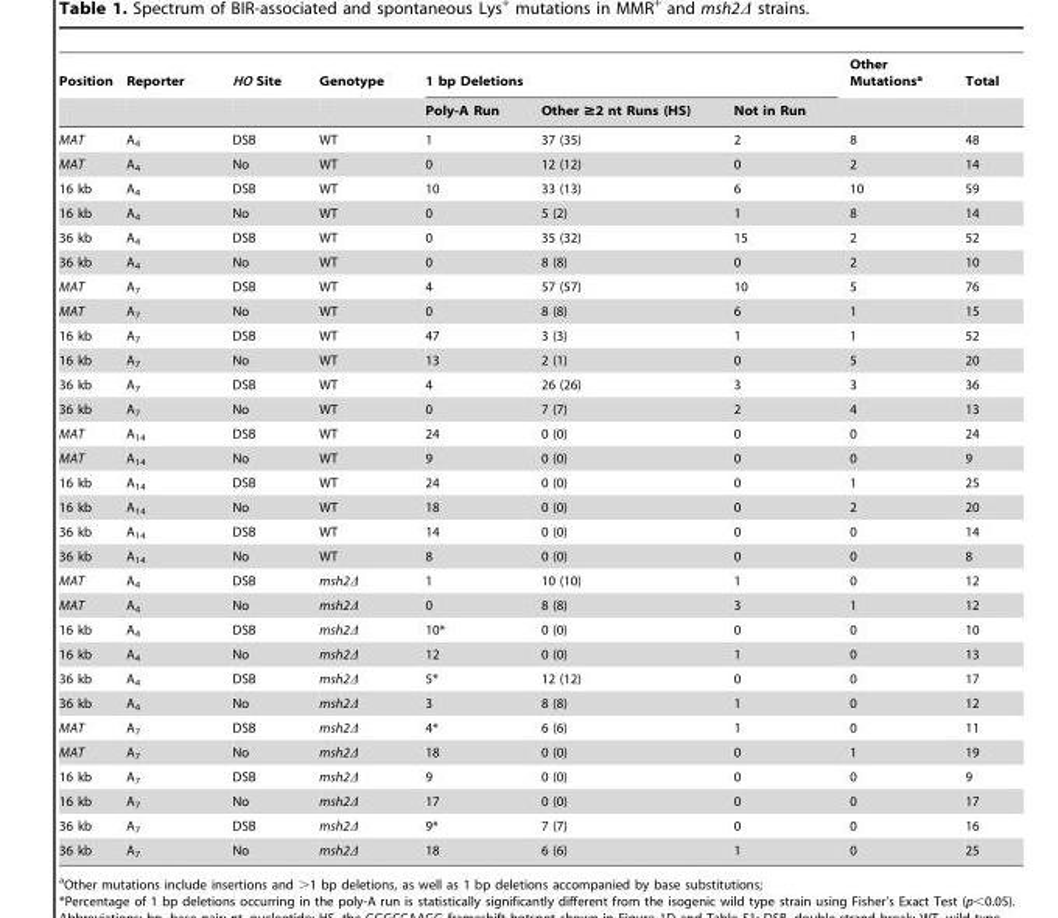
<table><thead><tr><td rowspan="2">Position</td><td rowspan="2">Reporter</td><td rowspan="2">HO Site</td><td rowspan="2">Genotype</td><td colspan="3">1 bp Deletions</td><td rowspan="2">Other Mutations<sup>a</sup></td><td rowspan="2">Total</td></tr><tr><td>Poly-A Run</td><td>Other ≥2 nt Runs (HS)</td><td>Not in Run</td></tr></thead><tbody><tr><td>MAT</td><td>A<sub>4</sub></td><td>DSB</td><td>WT</td><td>1</td><td>37 (35)</td><td>2</td><td>8</td><td>48</td></tr><tr><td>MAT</td><td>A<sub>4</sub></td><td>No</td><td>WT</td><td>0</td><td>12 (12)</td><td>0</td><td>2</td><td>14</td></tr><tr><td>16 kb</td><td>A<sub>4</sub></td><td>DSB</td><td>WT</td><td>10</td><td>33 (13)</td><td>6</td><td>10</td><td>59</td></tr><tr><td>16 kb</td><td>A<sub>4</sub></td><td>No</td><td>WT</td><td>0</td><td>5 (2)</td><td>1</td><td>8</td><td>14</td></tr><tr><td>36 kb</td><td>A<sub>4</sub></td><td>DSB</td><td>WT</td><td>0</td><td>35 (32)</td><td>15</td><td>2</td><td>52</td></tr><tr><td>36 kb</td><td>A<sub>4</sub></td><td>No</td><td>WT</td><td>0</td><td>8 (8)</td><td>0</td><td>2</td><td>10</td></tr><tr><td>MAT</td><td>A<sub>7</sub></td><td>DSB</td><td>WT</td><td>4</td><td>57 (57)</td><td>10</td><td>5</td><td>76</td></tr><tr><td>MAT</td><td>A<sub>7</sub></td><td>No</td><td>WT</td><td>0</td><td>8 (8)</td><td>6</td><td>1</td><td>15</td></tr><tr><td>16 kb</td><td>A<sub>7</sub></td><td>DSB</td><td>WT</td><td>47</td><td>3 (3)</td><td>1</td><td>1</td><td>52</td></tr><tr><td>16 kb</td><td>A<sub>7</sub></td><td>No</td><td>WT</td><td>13</td><td>2 (1)</td><td>0</td><td>5</td><td>20</td></tr><tr><td>36 kb</td><td>A<sub>7</sub></td><td>DSB</td><td>WT</td><td>4</td><td>26 (26)</td><td>3</td><td>3</td><td>36</td></tr><tr><td>36 kb</td><td>A<sub>7</sub></td><td>No</td><td>WT</td><td>0</td><td>7 (7)</td><td>2</td><td>4</td><td>13</td></tr><tr><td>MAT</td><td>A<sub>14</sub></td><td>DSB</td><td>WT</td><td>24</td><td>0 (0)</td><td>0</td><td>0</td><td>24</td></tr><tr><td>MAT</td><td>A<sub>14</sub></td><td>No</td><td>WT</td><td>9</td><td>0 (0)</td><td>0</td><td>0</td><td>9</td></tr><tr><td>16 kb</td><td>A<sub>14</sub></td><td>DSB</td><td>WT</td><td>24</td><td>0 (0)</td><td>0</td><td>1</td><td>25</td></tr><tr><td>16 kb</td><td>A<sub>14</sub></td><td>No</td><td>WT</td><td>18</td><td>0 (0)</td><td>0</td><td>2</td><td>20</td></tr><tr><td>36 kb</td><td>A<sub>14</sub></td><td>DSB</td><td>WT</td><td>14</td><td>0 (0)</td><td>0</td><td>0</td><td>14</td></tr><tr><td>36 kb</td><td>A<sub>14</sub></td><td>No</td><td>WT</td><td>8</td><td>0 (0)</td><td>0</td><td>0</td><td>8</td></tr><tr><td>MAT</td><td>A<sub>4</sub></td><td>DSB</td><td>msh2Δ</td><td>1</td><td>10 (10)</td><td>1</td><td>0</td><td>12</td></tr><tr><td>MAT</td><td>A<sub>4</sub></td><td>No</td><td>msh2Δ</td><td>0</td><td>8 (8)</td><td>3</td><td>1</td><td>12</td></tr><tr><td>16 kb</td><td>A<sub>4</sub></td><td>DSB</td><td>msh2Δ</td><td>10*</td><td>0 (0)</td><td>0</td><td>0</td><td>10</td></tr><tr><td>16 kb</td><td>A<sub>4</sub></td><td>No</td><td>msh2Δ</td><td>12</td><td>0 (0)</td><td>1</td><td>0</td><td>13</td></tr><tr><td>36 kb</td><td>A<sub>4</sub></td><td>DSB</td><td>msh2Δ</td><td>5*</td><td>12 (12)</td><td>0</td><td>0</td><td>17</td></tr><tr><td>36 kb</td><td>A<sub>4</sub></td><td>No</td><td>msh2Δ</td><td>3</td><td>8 (8)</td><td>1</td><td>0</td><td>12</td></tr><tr><td>MAT</td><td>A<sub>7</sub></td><td>DSB</td><td>msh2Δ</td><td>4*</td><td>6 (6)</td><td>1</td><td>0</td><td>11</td></tr><tr><td>MAT</td><td>A<sub>7</sub></td><td>No</td><td>msh2Δ</td><td>18</td><td>0 (0)</td><td>0</td><td>1</td><td>19</td></tr><tr><td>16 kb</td><td>A<sub>7</sub></td><td>DSB</td><td>msh2Δ</td><td>9</td><td>0 (0)</td><td>0</td><td>0</td><td>9</td></tr><tr><td>16 kb</td><td>A<sub>7</sub></td><td>No</td><td>msh2Δ</td><td>17</td><td>0 (0)</td><td>0</td><td>0</td><td>17</td></tr><tr><td>36 kb</td><td>A<sub>7</sub></td><td>DSB</td><td>msh2Δ</td><td>9*</td><td>7 (7)</td><td>0</td><td>0</td><td>16</td></tr><tr><td>36 kb</td><td>A<sub>7</sub></td><td>No</td><td>msh2Δ</td><td>18</td><td>6 (6)</td><td>1</td><td>0</td><td>25</td></tr></tbody></table>